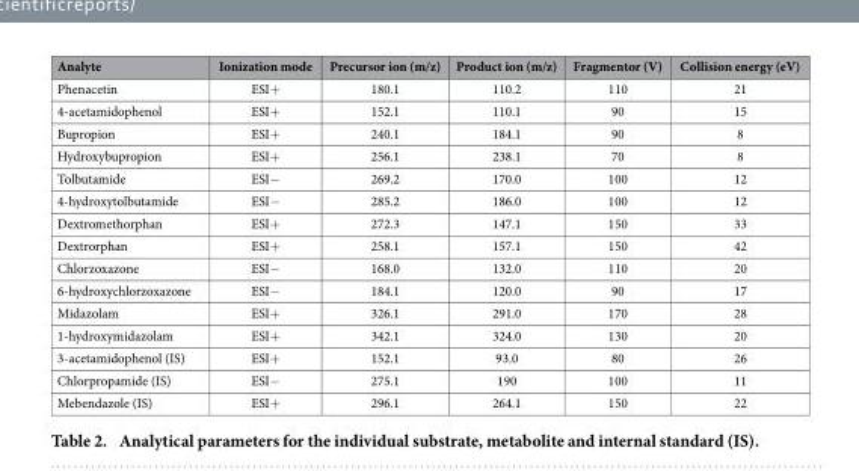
<table><thead><tr><td>Analyte</td><td>Ionization mode</td><td>Precursor ion (m/z)</td><td>Product ion (m/z)</td><td>Fragmentor (V)</td><td>Collision energy (eV)</td></tr></thead><tbody><tr><td>Phenacetin</td><td>ESI+</td><td>180.1</td><td>110.2</td><td>110</td><td>21</td></tr><tr><td>4-acetamidophenol</td><td>ESI+</td><td>152.1</td><td>110.1</td><td>90</td><td>15</td></tr><tr><td>Bupropion</td><td>ESI+</td><td>240.1</td><td>184.1</td><td>90</td><td>8</td></tr><tr><td>Hydroxybupropion</td><td>ESI+</td><td>256.1</td><td>238.1</td><td>70</td><td>8</td></tr><tr><td>Tolbutamide</td><td>ESI−</td><td>269.2</td><td>170.0</td><td>100</td><td>12</td></tr><tr><td>4-hydroxytolbutamide</td><td>ESI−</td><td>285.2</td><td>186.0</td><td>100</td><td>12</td></tr><tr><td>Dextromethorphan</td><td>ESI+</td><td>272.3</td><td>147.1</td><td>150</td><td>33</td></tr><tr><td>Dextrorphan</td><td>ESI+</td><td>258.1</td><td>157.1</td><td>150</td><td>42</td></tr><tr><td>Chlorzoxazone</td><td>ESI−</td><td>168.0</td><td>132.0</td><td>110</td><td>20</td></tr><tr><td>6-hydroxychlorzoxazone</td><td>ESI−</td><td>184.1</td><td>120.0</td><td>90</td><td>17</td></tr><tr><td>Midazolam</td><td>ESI+</td><td>326.1</td><td>291.0</td><td>170</td><td>28</td></tr><tr><td>1-hydroxymidazolam</td><td>ESI+</td><td>342.1</td><td>324.0</td><td>130</td><td>20</td></tr><tr><td>3-acetamidophenol (IS)</td><td>ESI+</td><td>152.1</td><td>93.0</td><td>80</td><td>26</td></tr><tr><td>Chlorpropamide (IS)</td><td>ESI−</td><td>275.1</td><td>190</td><td>100</td><td>11</td></tr><tr><td>Mebendazole (IS)</td><td>ESI+</td><td>296.1</td><td>264.1</td><td>150</td><td>22</td></tr></tbody></table>